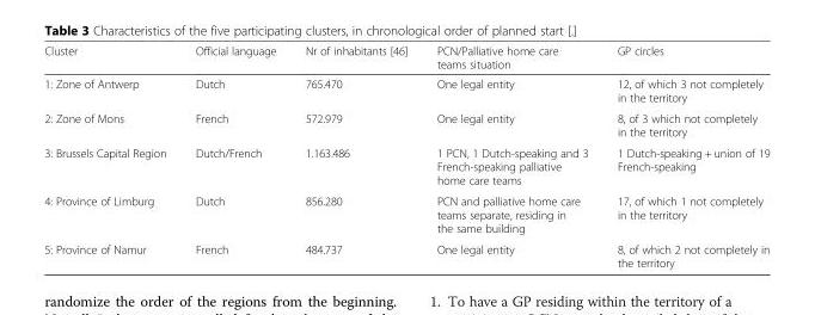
<table><thead><tr><td>Cluster</td><td>Official language</td><td>Nr of inhabitants [46]</td><td>PCN/Palliative home care teams situation</td><td>GP circles</td></tr></thead><tbody><tr><td>1: Zone of Antwerp</td><td>Dutch</td><td>765.470</td><td>One legal entity</td><td>12, of which 3 not completely in the territory</td></tr><tr><td>2: Zone of Mons</td><td>French</td><td>572.979</td><td>One legal entity</td><td>8, of 3 which not completely in the territory</td></tr><tr><td>3: Brussels Capital Region</td><td>Dutch/French</td><td>1.163.486</td><td>1 PCN, 1 Dutch-speaking and 3 French-speaking palliative home care teams</td><td>1 Dutch-speaking + union of 19 French-speaking</td></tr><tr><td>4: Province of Limburg</td><td>Dutch</td><td>856.280</td><td>PCN and palliative home care teams separate, residing in the same building</td><td>17, of which 1 not completely in the territory</td></tr><tr><td>5: Province of Namur</td><td>French</td><td>484.737</td><td>One legal entity</td><td>8, of which 2 not completely in the territory</td></tr></tbody></table>